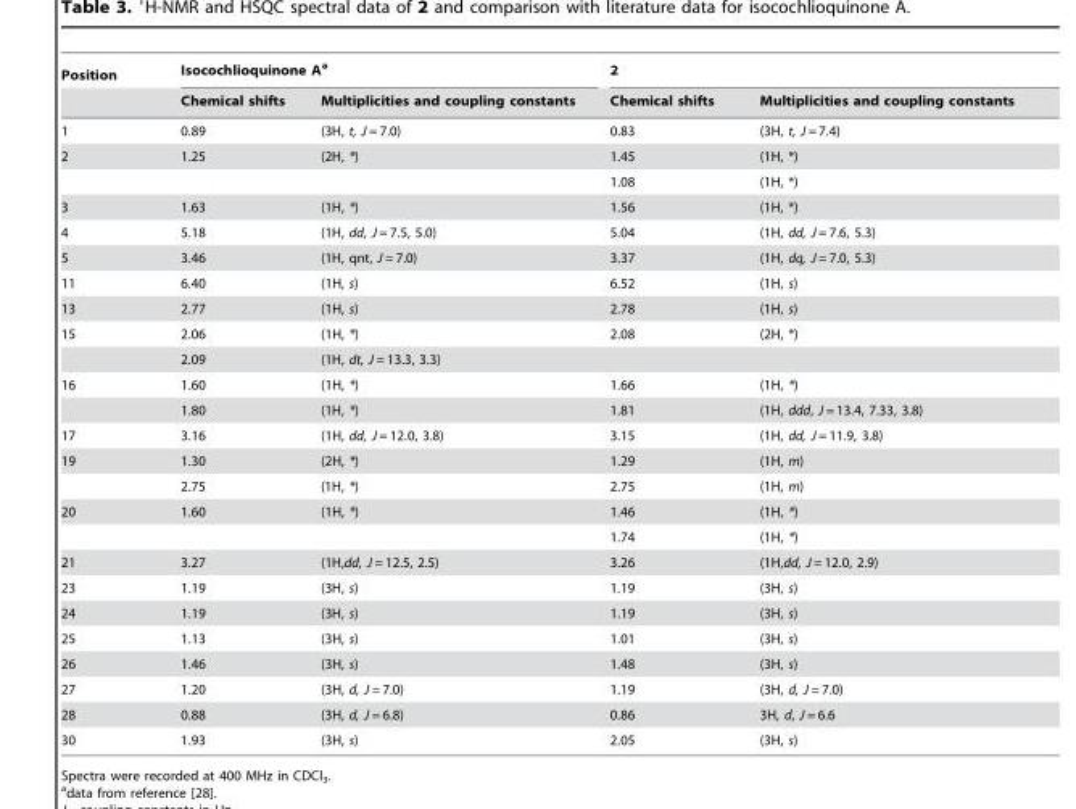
<table><thead><tr><td rowspan="2">Position</td><td colspan="2">Isocochlioquinone A<sup>a</sup></td><td colspan="2">2</td></tr><tr><td>Chemical shifts</td><td>Multiplicities and coupling constants</td><td>Chemical shifts</td><td>Multiplicities and coupling constants</td></tr></thead><tbody><tr><td>1</td><td>0.89</td><td>(3H, t, J = 7.0)</td><td>0.83</td><td>(3H, t, J = 7.4)</td></tr><tr><td rowspan="2">2</td><td>1.25</td><td>(2H, *)</td><td>1.45</td><td>(1H, *)</td></tr><tr><td></td><td></td><td>1.08</td><td>(1H, *)</td></tr><tr><td>3</td><td>1.63</td><td>(1H, *)</td><td>1.56</td><td>(1H, *)</td></tr><tr><td>4</td><td>5.18</td><td>(1H, dd, J = 7.5, 5.0)</td><td>5.04</td><td>(1H, dd, J = 7.6, 5.3)</td></tr><tr><td>5</td><td>3.46</td><td>(1H, qnt, J = 7.0)</td><td>3.37</td><td>(1H, dq, J = 7.0, 5.3)</td></tr><tr><td>11</td><td>6.40</td><td>(1H, s)</td><td>6.52</td><td>(1H, s)</td></tr><tr><td>13</td><td>2.77</td><td>(1H, s)</td><td>2.78</td><td>(1H, s)</td></tr><tr><td rowspan="2">15</td><td>2.06</td><td>(1H, *)</td><td>2.08</td><td>(2H, *)</td></tr><tr><td>2.09</td><td>(1H, dt, J = 13.3, 3.3)</td><td></td><td></td></tr><tr><td rowspan="2">16</td><td>1.60</td><td>(1H, *)</td><td>1.66</td><td>(1H, *)</td></tr><tr><td>1.80</td><td>(1H, *)</td><td>1.81</td><td>(1H, ddd, J = 13.4, 7.33, 3.8)</td></tr><tr><td>17</td><td>3.16</td><td>(1H, dd, J = 12.0, 3.8)</td><td>3.15</td><td>(1H, dd, J = 11.9, 3.8)</td></tr><tr><td rowspan="2">19</td><td>1.30</td><td>(2H, *)</td><td>1.29</td><td>(1H, m)</td></tr><tr><td>2.75</td><td>(1H, *)</td><td>2.75</td><td>(1H, m)</td></tr><tr><td rowspan="2">20</td><td>1.60</td><td>(1H, *)</td><td>1.46</td><td>(1H, *)</td></tr><tr><td></td><td></td><td>1.74</td><td>(1H, *)</td></tr><tr><td>21</td><td>3.27</td><td>(1H,dd, J = 12.5, 2.5)</td><td>3.26</td><td>(1H,dd, J = 12.0, 2.9)</td></tr><tr><td>23</td><td>1.19</td><td>(3H, s)</td><td>1.19</td><td>(3H, s)</td></tr><tr><td>24</td><td>1.19</td><td>(3H, s)</td><td>1.19</td><td>(3H, s)</td></tr><tr><td>25</td><td>1.13</td><td>(3H, s)</td><td>1.01</td><td>(3H, s)</td></tr><tr><td>26</td><td>1.46</td><td>(3H, s)</td><td>1.48</td><td>(3H, s)</td></tr><tr><td>27</td><td>1.20</td><td>(3H, d, J = 7.0)</td><td>1.19</td><td>(3H, d, J = 7.0)</td></tr><tr><td>28</td><td>0.88</td><td>(3H, d, J = 6.8)</td><td>0.86</td><td>3H, d, J = 6.6</td></tr><tr><td>30</td><td>1.93</td><td>(3H, s)</td><td>2.05</td><td>(3H, s)</td></tr></tbody></table>